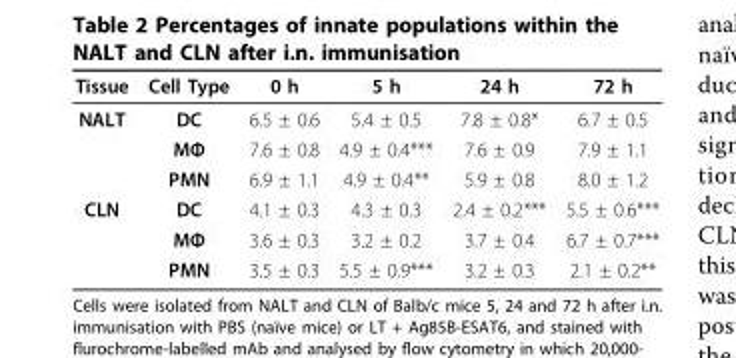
<table><thead><tr><td>Tissue</td><td>Cell Type</td><td>0 h</td><td>5 h</td><td>24 h</td><td>72 h</td></tr></thead><tbody><tr><td rowspan="3">NALT</td><td>DC</td><td>6.5 ± 0.6</td><td>5.4 ± 0.5</td><td>7.8 ± 0.8*</td><td>6.7 ± 0.5</td></tr><tr><td>MФ</td><td>7.6 ± 0.8</td><td>4.9 ± 0.4***</td><td>7.6 ± 0.9</td><td>7.9 ± 1.1</td></tr><tr><td>PMN</td><td>6.9 ± 1.1</td><td>4.9 ± 0.4**</td><td>5.9 ± 0.8</td><td>8.0 ± 1.2</td></tr><tr><td rowspan="3">CLN</td><td>DC</td><td>4.1 ± 0.3</td><td>4.3 ± 0.3</td><td>2.4 ± 0.2***</td><td>5.5 ± 0.6***</td></tr><tr><td>MФ</td><td>3.6 ± 0.3</td><td>3.2 ± 0.2</td><td>3.7 ± 0.4</td><td>6.7 ± 0.7***</td></tr><tr><td>PMN</td><td>3.5 ± 0.3</td><td>5.5 ± 0.9***</td><td>3.2 ± 0.3</td><td>2.1 ± 0.2**</td></tr></tbody></table>